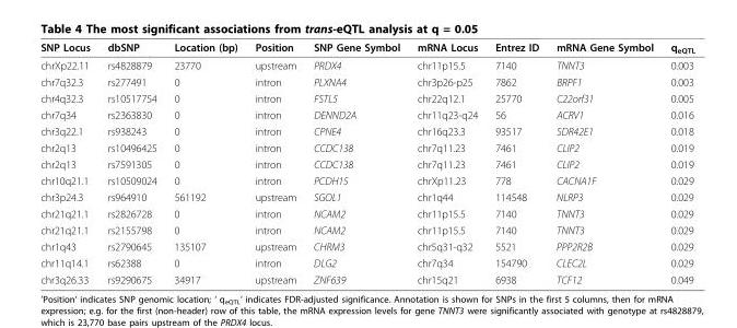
<table><thead><tr><td>SNP Locus</td><td>dbSNP</td><td>Location (bp)</td><td>Position</td><td>SNP Gene Symbol</td><td>mRNA Locus</td><td>Entrez ID</td><td>mRNA Gene Symbol</td><td>q<sub>eQTL</sub></td></tr></thead><tbody><tr><td>chrXp22.11</td><td>rs4828879</td><td>23770</td><td>upstream</td><td>PRDX4</td><td>chr11p15.5</td><td>7140</td><td>TNNT3</td><td>0.003</td></tr><tr><td>chr7q32.3</td><td>rs277491</td><td>0</td><td>intron</td><td>PLXNA4</td><td>chr3p26-p25</td><td>7862</td><td>BRPF1</td><td>0.003</td></tr><tr><td>chr4q32.3</td><td>rs10517754</td><td>0</td><td>intron</td><td>FSTL5</td><td>chr22q12.1</td><td>25770</td><td>C22orf31</td><td>0.005</td></tr><tr><td>chr7q34</td><td>rs2363830</td><td>0</td><td>intron</td><td>DENND2A</td><td>chr11q23-q24</td><td>56</td><td>ACRV1</td><td>0.016</td></tr><tr><td>chr3q22.1</td><td>rs938243</td><td>0</td><td>intron</td><td>CPNE4</td><td>chr16q23.3</td><td>93517</td><td>SDR42E1</td><td>0.018</td></tr><tr><td>chr2q13</td><td>rs10496425</td><td>0</td><td>intron</td><td>CCDC138</td><td>chr7q11.23</td><td>7461</td><td>CLIP2</td><td>0.019</td></tr><tr><td>chr2q13</td><td>rs7591305</td><td>0</td><td>intron</td><td>CCDC138</td><td>chr7q11.23</td><td>7461</td><td>CLIP2</td><td>0.019</td></tr><tr><td>chr10q21.1</td><td>rs10509024</td><td>0</td><td>intron</td><td>PCDH15</td><td>chrXp11.23</td><td>778</td><td>CACNA1F</td><td>0.029</td></tr><tr><td>chr3p24.3</td><td>rs964910</td><td>561192</td><td>upstream</td><td>SGOL1</td><td>chr1q44</td><td>114548</td><td>NLRP3</td><td>0.029</td></tr><tr><td>chr21q21.1</td><td>rs2826728</td><td>0</td><td>intron</td><td>NCAM2</td><td>chr11p15.5</td><td>7140</td><td>TNNT3</td><td>0.029</td></tr><tr><td>chr21q21.1</td><td>rs2155798</td><td>0</td><td>intron</td><td>NCAM2</td><td>chr11p15.5</td><td>7140</td><td>TNNT3</td><td>0.029</td></tr><tr><td>chr1q43</td><td>rs2790645</td><td>135107</td><td>upstream</td><td>CHRM3</td><td>chr5q31-q32</td><td>5521</td><td>PPP2R2B</td><td>0.029</td></tr><tr><td>chr11q14.1</td><td>rs62388</td><td>0</td><td>intron</td><td>DLG2</td><td>chr7q34</td><td>154790</td><td>CLEC2L</td><td>0.029</td></tr><tr><td>chr3q26.33</td><td>rs9290675</td><td>34917</td><td>upstream</td><td>ZNF639</td><td>chr15q21</td><td>6938</td><td>TCF12</td><td>0.049</td></tr></tbody></table>